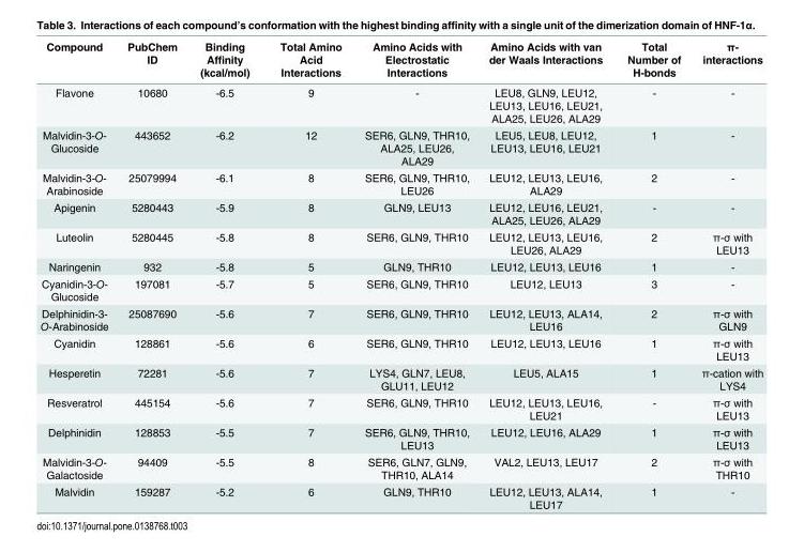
<table><thead><tr><td>Compound</td><td>PubChem ID</td><td>Binding Affinity (kcal/mol)</td><td>Total Amino Acid Interactions</td><td>Amino Acids with Electrostatic Interactions</td><td>Amino Acids with van der Waals Interactions</td><td>Total Number of H-bonds</td><td>π- interactions</td></tr></thead><tbody><tr><td>Flavone</td><td>10680</td><td>-6.5</td><td>9</td><td>-</td><td>LEU8, GLN9, LEU12, LEU13, LEU16, LEU21, ALA25, LEU26, ALA29</td><td>-</td><td>-</td></tr><tr><td>Malvidin-3-O- Glucoside</td><td>443652</td><td>-6.2</td><td>12</td><td>SER6, GLN9, THR10, ALA25, LEU26, ALA29</td><td>LEU5, LEU8, LEU12, LEU13, LEU16, LEU21</td><td>1</td><td>-</td></tr><tr><td>Malvidin-3-O- Arabinoside</td><td>25079994</td><td>-6.1</td><td>8</td><td>SER6, GLN9, THR10, LEU26</td><td>LEU12, LEU13, LEU16, ALA29</td><td>2</td><td>-</td></tr><tr><td>Apigenin</td><td>5280443</td><td>-5.9</td><td>8</td><td>GLN9, LEU13</td><td>LEU12, LEU16, LEU21, ALA25, LEU26, ALA29</td><td>-</td><td>-</td></tr><tr><td>Luteolin</td><td>5280445</td><td>-5.8</td><td>8</td><td>SER6, GLN9, THR10</td><td>LEU12, LEU13, LEU16, LEU26, ALA29</td><td>2</td><td>π-σ with LEU13</td></tr><tr><td>Naringenin</td><td>932</td><td>-5.8</td><td>5</td><td>GLN9, THR10</td><td>LEU12, LEU13, LEU16</td><td>1</td><td>-</td></tr><tr><td>Cyanidin-3-O- Glucoside</td><td>197081</td><td>-5.7</td><td>5</td><td>SER6, GLN9, THR10</td><td>LEU12, LEU13</td><td>3</td><td>-</td></tr><tr><td>Delphinidin-3- O-Arabinoside</td><td>25087690</td><td>-5.6</td><td>7</td><td>SER6, GLN9, THR10</td><td>LEU12, LEU13, ALA14, LEU16</td><td>2</td><td>π-σ with GLN9</td></tr><tr><td>Cyanidin</td><td>128861</td><td>-5.6</td><td>6</td><td>SER6, GLN9, THR10</td><td>LEU12, LEU13, LEU16</td><td>1</td><td>π-σ with LEU13</td></tr><tr><td>Hesperetin</td><td>72281</td><td>-5.6</td><td>7</td><td>LYS4, GLN7, LEU8, GLU11, LEU12</td><td>LEU5, ALA15</td><td>1</td><td>π-cation with LYS4</td></tr><tr><td>Resveratrol</td><td>445154</td><td>-5.6</td><td>7</td><td>SER6, GLN9, THR10</td><td>LEU12, LEU13, LEU16, LEU21</td><td>-</td><td>π-σ with LEU13</td></tr><tr><td>Delphinidin</td><td>128853</td><td>-5.5</td><td>7</td><td>SER6, GLN9, THR10, LEU13</td><td>LEU12, LEU16, ALA29</td><td>1</td><td>π-σ with LEU13</td></tr><tr><td>Malvidin-3-O- Galactoside</td><td>94409</td><td>-5.5</td><td>8</td><td>SER6, GLN7, GLN9, THR10, ALA14</td><td>VAL2, LEU13, LEU17</td><td>2</td><td>π-σ with THR10</td></tr><tr><td>Malvidin</td><td>159287</td><td>-5.2</td><td>6</td><td>GLN9, THR10</td><td>LEU12, LEU13, ALA14, LEU17</td><td>1</td><td>-</td></tr></tbody></table>